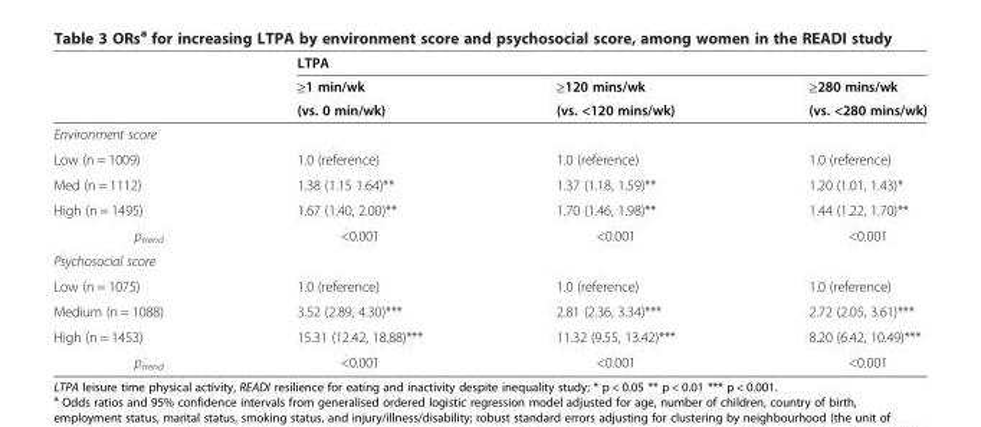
<table><thead><tr><td rowspan="3"></td><td colspan="3">LTPA</td></tr><tr><td rowspan="2">≥1 min/wk (vs. 0 min/wk)</td><td rowspan="2">≥120 mins/wk (vs. &lt;120 mins/wk)</td><td rowspan="2">≥280 mins/wk (vs. &lt;280 mins/wk)</td></tr><tr></tr></thead><tbody><tr><td colspan="4">Environment score</td></tr><tr><td>Low (n = 1009)</td><td>1.0 (reference)</td><td>1.0 (reference)</td><td>1.0 (reference)</td></tr><tr><td>Med (n = 1112)</td><td>1.38 (1.15 1.64)**</td><td>1.37 (1.18, 1.59)**</td><td>1.20 (1.01, 1.43)*</td></tr><tr><td>High (n = 1495)</td><td>1.67 (1.40, 2.00)**</td><td>1.70 (1.46, 1.98)**</td><td>1.44 (1.22, 1.70)**</td></tr><tr><td>p<sub>trend</sub></td><td>&lt;0.001</td><td>&lt;0.001</td><td>&lt;0.001</td></tr><tr><td colspan="4">Psychosocial score</td></tr><tr><td>Low (n = 1075)</td><td>1.0 (reference)</td><td>1.0 (reference)</td><td>1.0 (reference)</td></tr><tr><td>Medium (n = 1088)</td><td>3.52 (2.89, 4.30)***</td><td>2.81 (2.36, 3.34)***</td><td>2.72 (2.05, 3.61)***</td></tr><tr><td>High (n = 1453)</td><td>15.31 (12.42, 18.88)***</td><td>11.32 (9.55, 13.42)***</td><td>8.20 (6.42, 10.49)***</td></tr><tr><td>p<sub>trend</sub></td><td>&lt;0.001</td><td>&lt;0.001</td><td>&lt;0.001</td></tr></tbody></table>